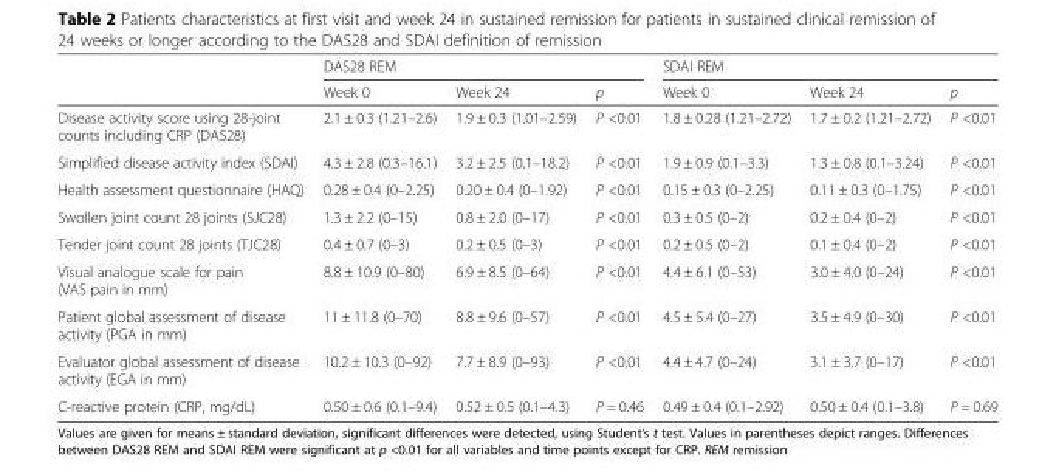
<table><thead><tr><td rowspan="2"></td><td colspan="3">DAS28 REM</td><td colspan="3">SDAI REM</td></tr><tr><td>Week 0</td><td>Week 24</td><td>p</td><td>Week 0</td><td>Week 24</td><td>p</td></tr></thead><tbody><tr><td>Disease activity score using 28-joint counts including CRP (DAS28)</td><td>2.1 ± 0.3 (1.21–2.6)</td><td>1.9 ± 0.3 (1.01–2.59)</td><td>P &lt;0.01</td><td>1.8 ± 0.28 (1.21–2.72)</td><td>1.7 ± 0.2 (1.21–2.72)</td><td>P &lt;0.01</td></tr><tr><td>Simplified disease activity index (SDAI)</td><td>4.3 ± 2.8 (0.3–16.1)</td><td>3.2 ± 2.5 (0.1–18.2)</td><td>P &lt;0.01</td><td>1.9 ± 0.9 (0.1–3.3)</td><td>1.3 ± 0.8 (0.1–3.24)</td><td>P &lt;0.01</td></tr><tr><td>Health assessment questionnaire (HAQ)</td><td>0.28 ± 0.4 (0–2.25)</td><td>0.20 ± 0.4 (0–1.92)</td><td>P &lt;0.01</td><td>0.15 ± 0.3 (0–2.25)</td><td>0.11 ± 0.3 (0–1.75)</td><td>P &lt;0.01</td></tr><tr><td>Swollen joint count 28 joints (SJC28)</td><td>1.3 ± 2.2 (0–15)</td><td>0.8 ± 2.0 (0–17)</td><td>P &lt;0.01</td><td>0.3 ± 0.5 (0–2)</td><td>0.2 ± 0.4 (0–2)</td><td>P &lt;0.01</td></tr><tr><td>Tender joint count 28 joints (TJC28)</td><td>0.4 ± 0.7 (0–3)</td><td>0.2 ± 0.5 (0–3)</td><td>P &lt;0.01</td><td>0.2 ± 0.5 (0–2)</td><td>0.1 ± 0.4 (0–2)</td><td>P &lt;0.01</td></tr><tr><td>Visual analogue scale for pain (VAS pain in mm)</td><td>8.8 ± 10.9 (0–80)</td><td>6.9 ± 8.5 (0–64)</td><td>P &lt;0.01</td><td>4.4 ± 6.1 (0–53)</td><td>3.0 ± 4.0 (0–24)</td><td>P &lt;0.01</td></tr><tr><td>Patient global assessment of disease activity (PGA in mm)</td><td>11 ± 11.8 (0–70)</td><td>8.8 ± 9.6 (0–57)</td><td>P &lt;0.01</td><td>4.5 ± 5.4 (0–27)</td><td>3.5 ± 4.9 (0–30)</td><td>P &lt;0.01</td></tr><tr><td>Evaluator global assessment of disease activity (EGA in mm)</td><td>10.2 ± 10.3 (0–92)</td><td>7.7 ± 8.9 (0–93)</td><td>P &lt;0.01</td><td>4.4 ± 4.7 (0–24)</td><td>3.1 ± 3.7 (0–17)</td><td>P &lt;0.01</td></tr><tr><td>C-reactive protein (CRP, mg/dL)</td><td>0.50 ± 0.6 (0.1–9.4)</td><td>0.52 ± 0.5 (0.1–4.3)</td><td>P = 0.46</td><td>0.49 ± 0.4 (0.1–2.92)</td><td>0.50 ± 0.4 (0.1–3.8)</td><td>P = 0.69</td></tr></tbody></table>